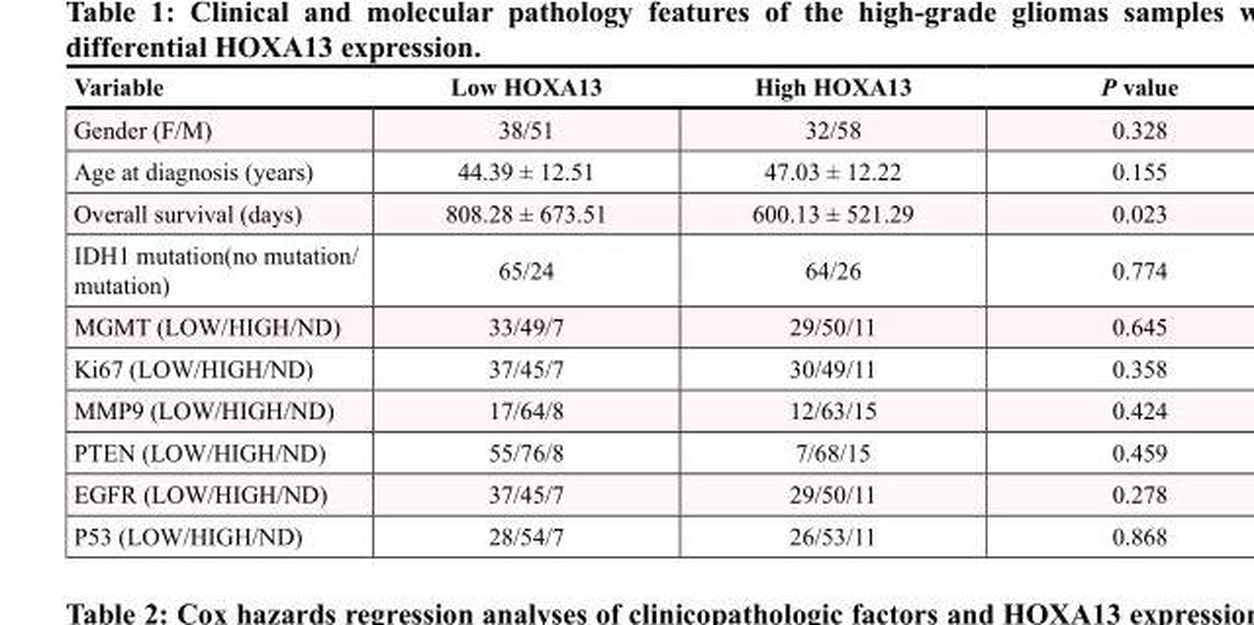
<table><thead><tr><td>Variable</td><td>Low HOXA13</td><td>High HOXA13</td><td>P value</td></tr></thead><tbody><tr><td>Gender (F/M)</td><td>38/51</td><td>32/58</td><td>0.328</td></tr><tr><td>Age at diagnosis (years)</td><td>44.39 ± 12.51</td><td>47.03 ± 12.22</td><td>0.155</td></tr><tr><td>Overall survival (days)</td><td>808.28 ± 673.51</td><td>600.13 ± 521.29</td><td>0.023</td></tr><tr><td>IDH1 mutation(no mutation/ mutation)</td><td>65/24</td><td>64/26</td><td>0.774</td></tr><tr><td>MGMT (LOW/HIGH/ND)</td><td>33/49/7</td><td>29/50/11</td><td>0.645</td></tr><tr><td>Ki67 (LOW/HIGH/ND)</td><td>37/45/7</td><td>30/49/11</td><td>0.358</td></tr><tr><td>MMP9 (LOW/HIGH/ND)</td><td>17/64/8</td><td>12/63/15</td><td>0.424</td></tr><tr><td>PTEN (LOW/HIGH/ND)</td><td>55/76/8</td><td>7/68/15</td><td>0.459</td></tr><tr><td>EGFR (LOW/HIGH/ND)</td><td>37/45/7</td><td>29/50/11</td><td>0.278</td></tr><tr><td>P53 (LOW/HIGH/ND)</td><td>28/54/7</td><td>26/53/11</td><td>0.868</td></tr></tbody></table>